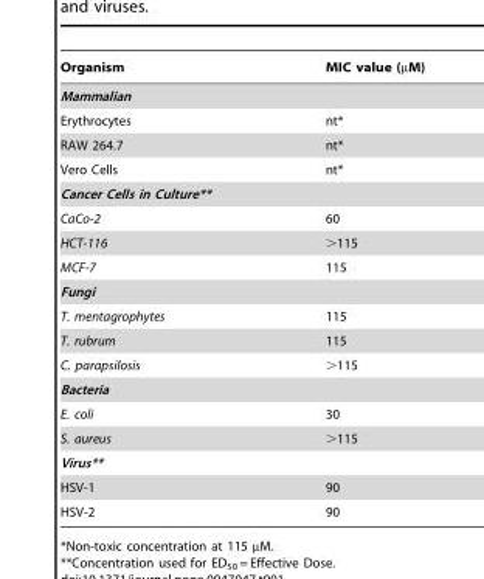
<table><thead><tr><td>Organism</td><td>MIC value (µM)</td></tr></thead><tbody><tr><td colspan="2">Mammalian</td></tr><tr><td>Erythrocytes</td><td>nt*</td></tr><tr><td>RAW 264.7</td><td>nt*</td></tr><tr><td>Vero Cells</td><td>nt*</td></tr><tr><td colspan="2">Cancer Cells in Culture**</td></tr><tr><td>CaCo-2</td><td>60</td></tr><tr><td>HCT-116</td><td>&gt;115</td></tr><tr><td>MCF-7</td><td>115</td></tr><tr><td colspan="2">Fungi</td></tr><tr><td>T. mentagrophytes</td><td>115</td></tr><tr><td>T. rubrum</td><td>115</td></tr><tr><td>C. parapsilosis</td><td>&gt;115</td></tr><tr><td colspan="2">Bacteria</td></tr><tr><td>E. coli</td><td>30</td></tr><tr><td>S. aureus</td><td>&gt;115</td></tr><tr><td colspan="2">Virus**</td></tr><tr><td>HSV-1</td><td>90</td></tr><tr><td>HSV-2</td><td>90</td></tr></tbody></table>